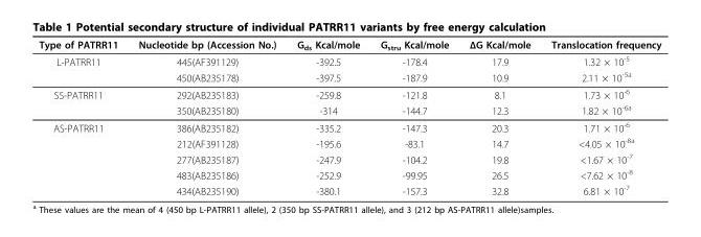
<table><thead><tr><td>Type of PATRR11</td><td>Nucleotide bp (Accession No.)</td><td>G<sub>ds</sub> Kcal/mole</td><td>G<sub>stru</sub> Kcal/mole</td><td>ΔG Kcal/mole</td><td>Translocation frequency</td></tr></thead><tbody><tr><td rowspan="2">L-PATRR11</td><td>445(AF391129)</td><td>-392.5</td><td>-178.4</td><td>17.9</td><td>1.32 × 10<sup>-5</sup></td></tr><tr><td>450(AB235178)</td><td>-397.5</td><td>-187.9</td><td>10.9</td><td>2.11 × 10<sup>-5a</sup></td></tr><tr><td rowspan="2">SS-PATRR11</td><td>292(AB235183)</td><td>-259.8</td><td>-121.8</td><td>8.1</td><td>1.73 × 10<sup>-6</sup></td></tr><tr><td>350(AB235180)</td><td>-314</td><td>-144.7</td><td>12.3</td><td>1.82 × 10<sup>-6a</sup></td></tr><tr><td rowspan="5">AS-PATRR11</td><td>386(AB235182)</td><td>-335.2</td><td>-147.3</td><td>20.3</td><td>1.71 × 10<sup>-6</sup></td></tr><tr><td>212(AF391128)</td><td>-195.6</td><td>-83.1</td><td>14.7</td><td>&lt;4.05 × 10<sup>-8a</sup></td></tr><tr><td>277(AB235187)</td><td>-247.9</td><td>-104.2</td><td>19.8</td><td>&lt;1.67 × 10<sup>-7</sup></td></tr><tr><td>483(AB235186)</td><td>-252.9</td><td>-99.95</td><td>26.5</td><td>&lt;7.62 × 10<sup>-8</sup></td></tr><tr><td>434(AB235190)</td><td>-380.1</td><td>-157.3</td><td>32.8</td><td>6.81 × 10<sup>-7</sup></td></tr></tbody></table>